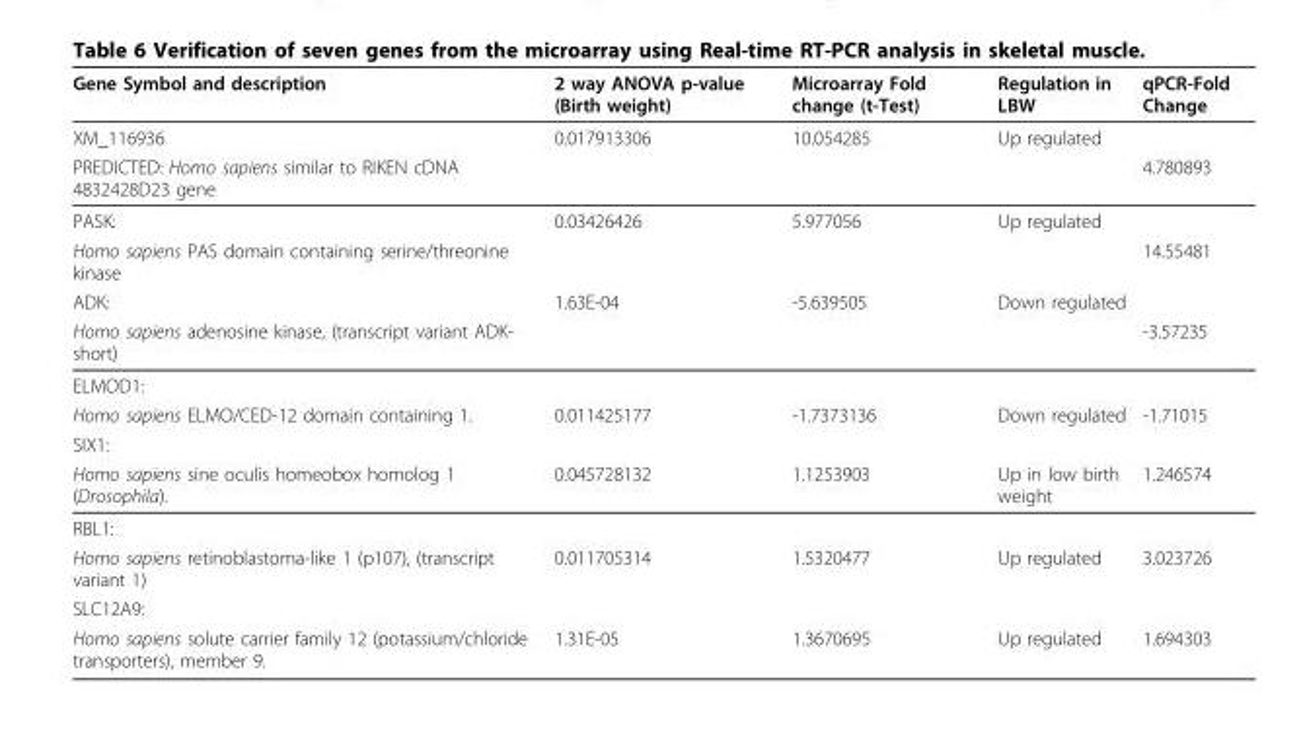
<table><thead><tr><td>Gene Symbol and description</td><td>2 way ANOVA p-value (Birth weight)</td><td>Microarray Fold change (t-Test)</td><td>Regulation in LBW</td><td>qPCR-Fold Change</td></tr></thead><tbody><tr><td>XM_116936</td><td>0.017913306</td><td>10.054285</td><td>Up regulated</td><td></td></tr><tr><td>PREDICTED: Homo sapiens similar to RIKEN cDNA 4832428D23 gene</td><td></td><td></td><td></td><td>4.780893</td></tr><tr><td>PASK:</td><td>0.03426426</td><td>5.977056</td><td>Up regulated</td><td></td></tr><tr><td>Homo sapiens PAS domain containing serine/threonine kinase</td><td></td><td></td><td></td><td>14.55481</td></tr><tr><td>ADK:</td><td>1.63E-04</td><td>-5.639505</td><td>Down regulated</td><td></td></tr><tr><td>Homo sapiens adenosine kinase, (transcript variant ADK- short)</td><td></td><td></td><td></td><td>-3.57235</td></tr><tr><td colspan="5">ELMOD1:</td></tr><tr><td>Homo sapiens ELMO/CED-12 domain containing 1.</td><td>0.011425177</td><td>-1.7373136</td><td>Down regulated</td><td>-1.71015</td></tr><tr><td colspan="5">SIX1:</td></tr><tr><td>Homo sapiens sine oculis homeobox homolog 1 (Drosophila).</td><td>0.045728132</td><td>1.1253903</td><td>Up in low birth weight</td><td>1.246574</td></tr><tr><td colspan="5">RBL1:</td></tr><tr><td>Homo sapiens retinoblastoma-like 1 (p107), (transcript variant 1)</td><td>0.011705314</td><td>1.5320477</td><td>Up regulated</td><td>3.023726</td></tr><tr><td colspan="5">SLC12A9:</td></tr><tr><td>Homo sapiens solute carrier family 12 (potassium/chloride transporters), member 9.</td><td>1.31E-05</td><td>1.3670695</td><td>Up regulated</td><td>1.694303</td></tr></tbody></table>